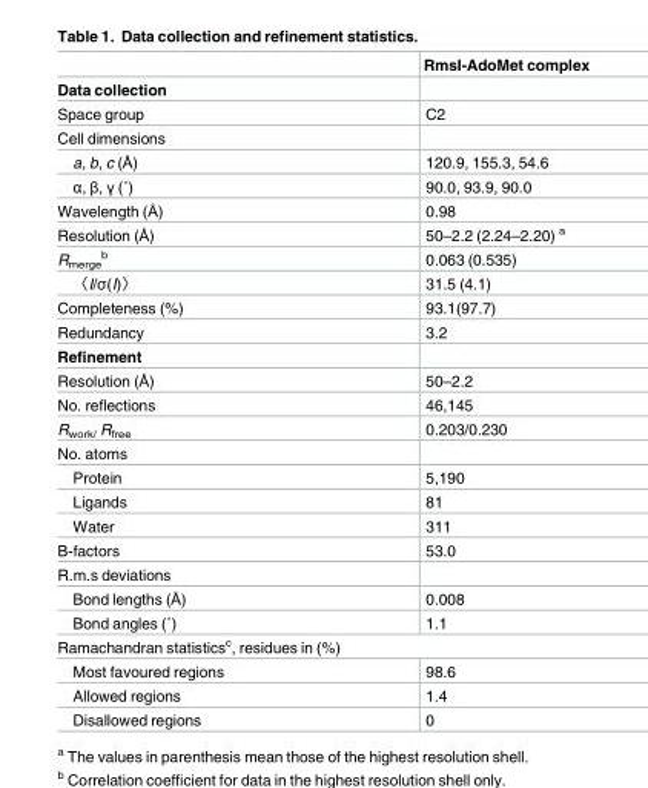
<table><thead><tr><td></td><td>RmsI-AdoMet complex</td></tr></thead><tbody><tr><td colspan="2">Data collection</td></tr><tr><td>Space group</td><td>C2</td></tr><tr><td colspan="2">Cell dimensions</td></tr><tr><td>a, b, c (Å)</td><td>120.9, 155.3, 54.6</td></tr><tr><td>α, β, γ (˚)</td><td>90.0, 93.9, 90.0</td></tr><tr><td>Wavelength (Å)</td><td>0.98</td></tr><tr><td>Resolution (Å)</td><td>50–2.2 (2.24–2.20) <sup>a</sup></td></tr><tr><td>R<sub>merge</sub> <sup>b</sup></td><td>0.063 (0.535)</td></tr><tr><td>〈I/σ(I)〉</td><td>31.5 (4.1)</td></tr><tr><td>Completeness (%)</td><td>93.1(97.7)</td></tr><tr><td>Redundancy</td><td>3.2</td></tr><tr><td colspan="2">Refinement</td></tr><tr><td>Resolution (Å)</td><td>50–2.2</td></tr><tr><td>No. reflections</td><td>46,145</td></tr><tr><td>R<sub>work/</sub> R<sub>free</sub></td><td>0.203/0.230</td></tr><tr><td colspan="2">No. atoms</td></tr><tr><td>Protein</td><td>5,190</td></tr><tr><td>Ligands</td><td>81</td></tr><tr><td>Water</td><td>311</td></tr><tr><td>B-factors</td><td>53.0</td></tr><tr><td colspan="2">R.m.s deviations</td></tr><tr><td>Bond lengths (Å)</td><td>0.008</td></tr><tr><td>Bond angles (˚)</td><td>1.1</td></tr><tr><td colspan="2">Ramachandran statistics<sup>c</sup>, residues in (%)</td></tr><tr><td>Most favoured regions</td><td>98.6</td></tr><tr><td>Allowed regions</td><td>1.4</td></tr><tr><td>Disallowed regions</td><td>0</td></tr></tbody></table>